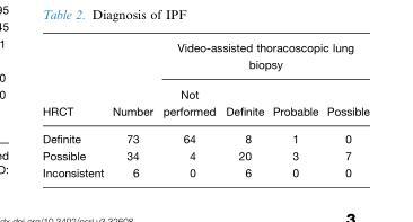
<table><thead><tr><td rowspan="2">HRCT</td><td rowspan="2">Number</td><td colspan="4">Video-assisted thoracoscopic lung biopsy</td></tr><tr><td>Not performed</td><td>Definite</td><td>Probable</td><td>Possible</td></tr></thead><tbody><tr><td>Definite</td><td>73</td><td>64</td><td>8</td><td>1</td><td>0</td></tr><tr><td>Possible</td><td>34</td><td>4</td><td>20</td><td>3</td><td>7</td></tr><tr><td>Inconsistent</td><td>6</td><td>0</td><td>6</td><td>0</td><td>0</td></tr></tbody></table>